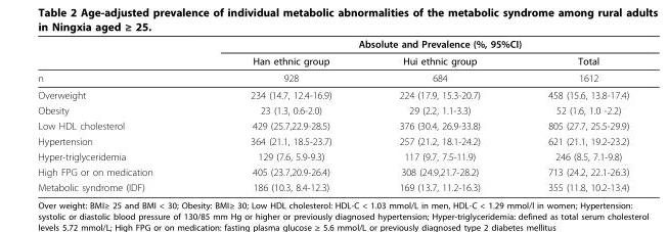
<table><thead><tr><td rowspan="2"></td><td colspan="3">Absolute and Prevalence (%, 95%CI)</td></tr><tr><td>Han ethnic group</td><td>Hui ethnic group</td><td>Total</td></tr></thead><tbody><tr><td>n</td><td>928</td><td>684</td><td>1612</td></tr><tr><td>Overweight</td><td>234 (14.7, 12.4-16.9)</td><td>224 (17.9, 15.3-20.7)</td><td>458 (15.6, 13.8-17.4)</td></tr><tr><td>Obesity</td><td>23 (1.3, 0.6-2.0)</td><td>29 (2.2, 1.1-3.3)</td><td>52 (1.6, 1.0 -2.2)</td></tr><tr><td>Low HDL cholesterol</td><td>429 (25.7,22.9-28.5)</td><td>376 (30.4, 26.9-33.8)</td><td>805 (27.7, 25.5-29.9)</td></tr><tr><td>Hypertension</td><td>364 (21.1, 18.5-23.7)</td><td>257 (21.2, 18.1-24.2)</td><td>621 (21.1, 19.2-23.2)</td></tr><tr><td>Hyper-triglyceridemia</td><td>129 (7.6, 5.9-9.3)</td><td>117 (9.7, 7.5-11.9)</td><td>246 (8.5, 7.1-9.8)</td></tr><tr><td>High FPG or on medication</td><td>405 (23.7,20.9-26.4)</td><td>308 (24.9,21.7-28.2)</td><td>713 (24.2, 22.1-26.3)</td></tr><tr><td>Metabolic syndrome (IDF)</td><td>186 (10.3, 8.4-12.3)</td><td>169 (13.7, 11.2-16.3)</td><td>355 (11.8, 10.2-13.4)</td></tr></tbody></table>